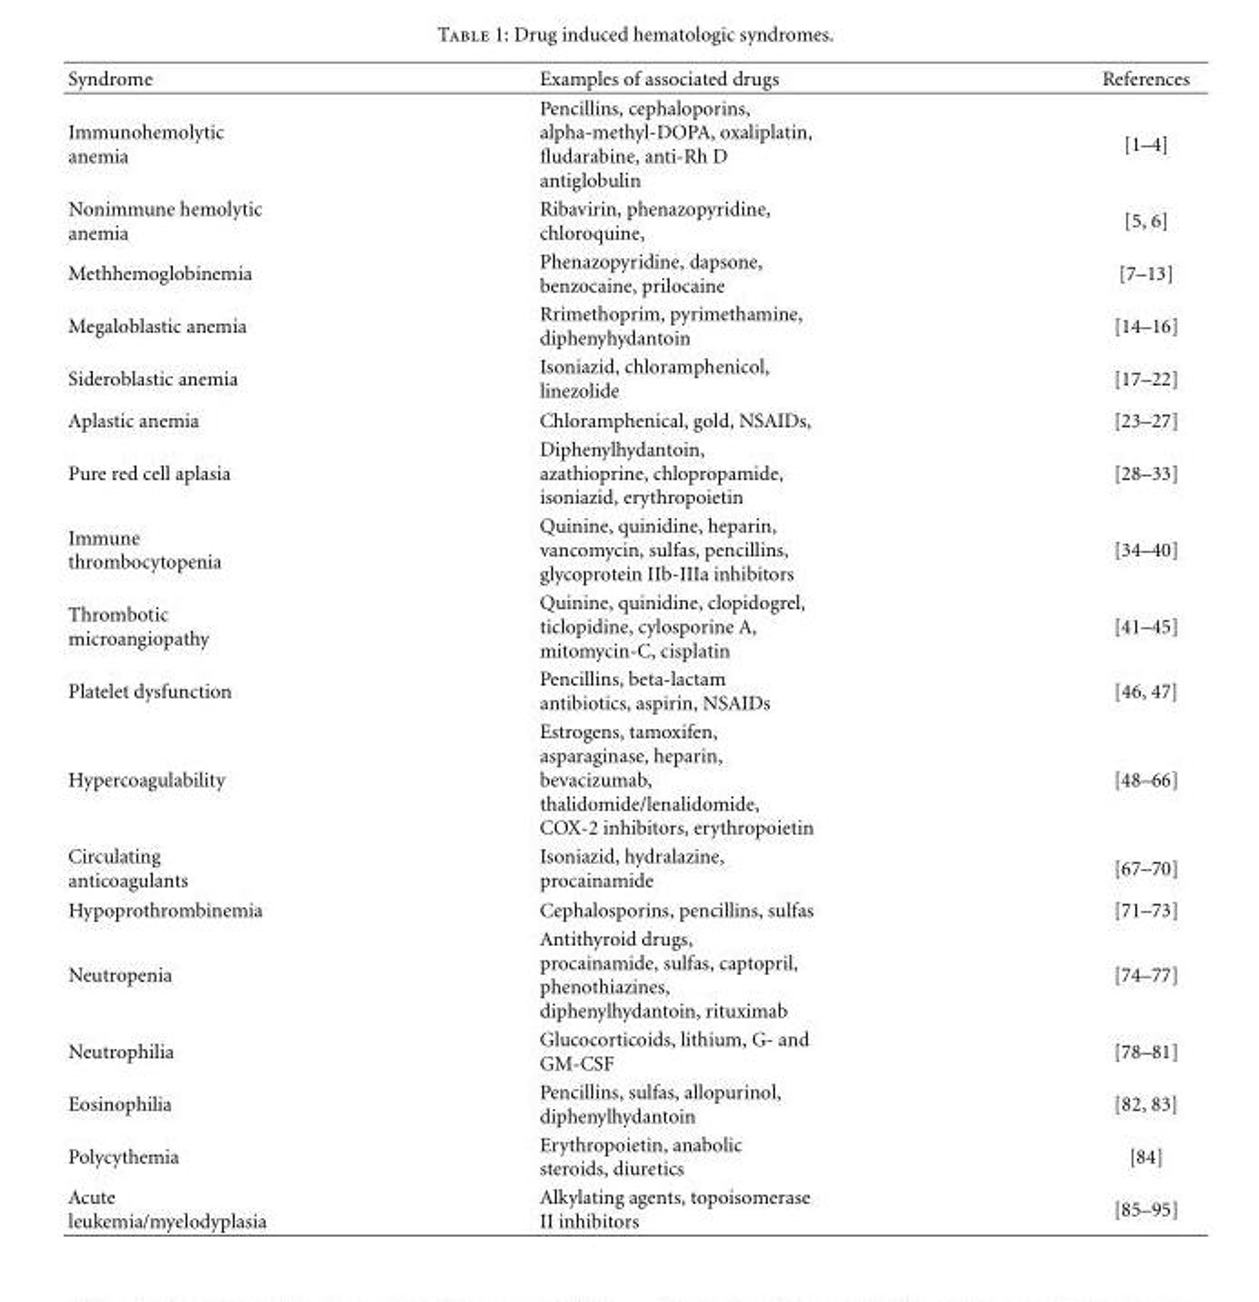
<table><thead><tr><td>Syndrome</td><td>Examples of associated drugs</td><td>References</td></tr></thead><tbody><tr><td>Immunohemolytic anemia</td><td>Pencillins, cephaloporins, alpha-methyl-DOPA, oxaliplatin, fludarabine, anti-Rh D antiglobulin</td><td>[1–4]</td></tr><tr><td>Nonimmune hemolytic anemia</td><td>Ribavirin, phenazopyridine, chloroquine,</td><td>[5, 6]</td></tr><tr><td>Methhemoglobinemia</td><td>Phenazopyridine, dapsone, benzocaine, prilocaine</td><td>[7–13]</td></tr><tr><td>Megaloblastic anemia</td><td>Rrimethoprim, pyrimethamine, diphenyhydantoin</td><td>[14–16]</td></tr><tr><td>Sideroblastic anemia</td><td>Isoniazid, chloramphenicol, linezolide</td><td>[17–22]</td></tr><tr><td>Aplastic anemia</td><td>Chloramphenical, gold, NSAIDs,</td><td>[23–27]</td></tr><tr><td>Pure red cell aplasia</td><td>Diphenylhydantoin, azathioprine, chlopropamide, isoniazid, erythropoietin</td><td>[28–33]</td></tr><tr><td>Immune thrombocytopenia</td><td>Quinine, quinidine, heparin, vancomycin, sulfas, pencillins, glycoprotein IIb-IIIa inhibitors</td><td>[34–40]</td></tr><tr><td>Thrombotic microangiopathy</td><td>Quinine, quinidine, clopidogrel, ticlopidine, cylosporine A, mitomycin-C, cisplatin</td><td>[41–45]</td></tr><tr><td>Platelet dysfunction</td><td>Pencillins, beta-lactam antibiotics, aspirin, NSAIDs</td><td>[46, 47]</td></tr><tr><td>Hypercoagulability</td><td>Estrogens, tamoxifen, asparaginase, heparin, bevacizumab, thalidomide/lenalidomide, COX-2 inhibitors, erythropoietin</td><td>[48–66]</td></tr><tr><td>Circulating anticoagulants</td><td>Isoniazid, hydralazine, procainamide</td><td>[67–70]</td></tr><tr><td>Hypoprothrombinemia</td><td>Cephalosporins, pencillins, sulfas</td><td>[71–73]</td></tr><tr><td>Neutropenia</td><td>Antithyroid drugs, procainamide, sulfas, captopril, phenothiazines, diphenylhydantoin, rituximab</td><td>[74–77]</td></tr><tr><td>Neutrophilia</td><td>Glucocorticoids, lithium, G- and GM-CSF</td><td>[78–81]</td></tr><tr><td>Eosinophilia</td><td>Pencillins, sulfas, allopurinol, diphenylhydantoin</td><td>[82, 83]</td></tr><tr><td>Polycythemia</td><td>Erythropoietin, anabolic steroids, diuretics</td><td>[84]</td></tr><tr><td>Acute leukemia/myelodyplasia</td><td>Alkylating agents, topoisomerase II inhibitors</td><td>[85–95]</td></tr></tbody></table>